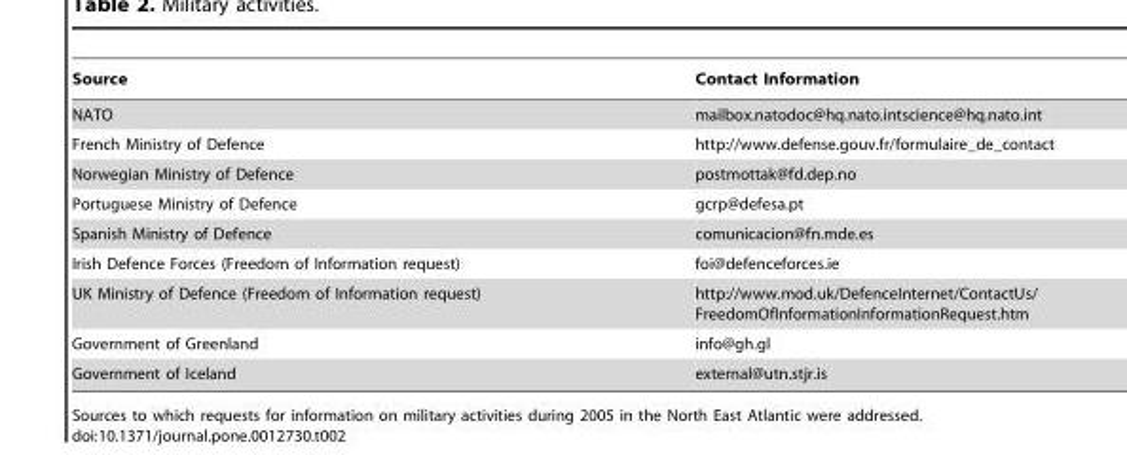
<table><thead><tr><td>Source</td><td>Contact Information</td></tr></thead><tbody><tr><td>NATO</td><td>mailbox.natodoc@hq.nato.intscience@hq.nato.int</td></tr><tr><td>French Ministry of Defence</td><td>http://www.defense.gouv.fr/formulaire_de_contact</td></tr><tr><td>Norwegian Ministry of Defence</td><td>postmottak@fd.dep.no</td></tr><tr><td>Portuguese Ministry of Defence</td><td>gcrp@defesa.pt</td></tr><tr><td>Spanish Ministry of Defence</td><td>comunicacion@fn.mde.es</td></tr><tr><td>Irish Defence Forces (Freedom of Information request)</td><td>foi@defenceforces.ie</td></tr><tr><td>UK Ministry of Defence (Freedom of Information request)</td><td>http://www.mod.uk/DefenceInternet/ContactUs/ FreedomOfInformationInformationRequest.htm</td></tr><tr><td>Government of Greenland</td><td>info@gh.gl</td></tr><tr><td>Government of Iceland</td><td>external@utn.stjr.is</td></tr></tbody></table>